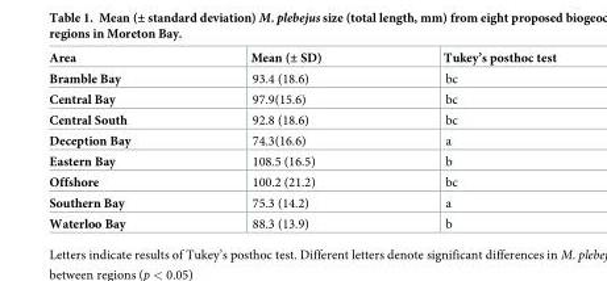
<table><thead><tr><td>Area</td><td>Mean (± SD)</td><td>Tukey’s posthoc test</td></tr></thead><tbody><tr><td>Bramble Bay</td><td>93.4 (18.6)</td><td>bc</td></tr><tr><td>Central Bay</td><td>97.9(15.6)</td><td>bc</td></tr><tr><td>Central South</td><td>92.8 (18.6)</td><td>bc</td></tr><tr><td>Deception Bay</td><td>74.3(16.6)</td><td>a</td></tr><tr><td>Eastern Bay</td><td>108.5 (16.5)</td><td>b</td></tr><tr><td>Offshore</td><td>100.2 (21.2)</td><td>bc</td></tr><tr><td>Southern Bay</td><td>75.3 (14.2)</td><td>a</td></tr><tr><td>Waterloo Bay</td><td>88.3 (13.9)</td><td>b</td></tr></tbody></table>